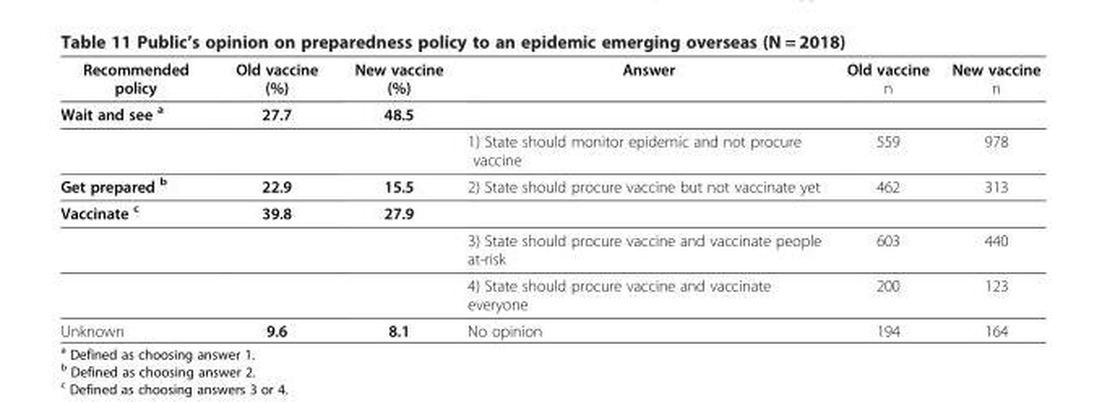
<table><thead><tr><td>Recommended policy</td><td>Old vaccine (%)</td><td>New vaccine (%)</td><td>Answer</td><td>Old vaccine n</td><td>New vaccine n</td></tr></thead><tbody><tr><td rowspan="2">Wait and see <sup>a</sup></td><td>27.7</td><td>48.5</td><td></td><td></td><td></td></tr><tr><td></td><td></td><td>1) State should monitor epidemic and not procure vaccine</td><td>559</td><td>978</td></tr><tr><td>Get prepared <sup>b</sup></td><td>22.9</td><td>15.5</td><td>2) State should procure vaccine but not vaccinate yet</td><td>462</td><td>313</td></tr><tr><td rowspan="3">Vaccinate <sup>c</sup></td><td>39.8</td><td>27.9</td><td></td><td></td><td></td></tr><tr><td></td><td></td><td>3) State should procure vaccine and vaccinate people at-risk</td><td>603</td><td>440</td></tr><tr><td></td><td></td><td>4) State should procure vaccine and vaccinate everyone</td><td>200</td><td>123</td></tr><tr><td>Unknown</td><td>9.6</td><td>8.1</td><td>No opinion</td><td>194</td><td>164</td></tr></tbody></table>